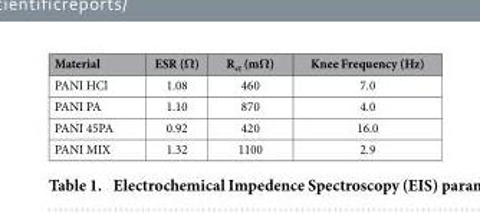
<table><thead><tr><td>Material</td><td>ESR (Ω)</td><td>R<sub>ct</sub> (mΩ)</td><td>Knee Frequency (Hz)</td></tr></thead><tbody><tr><td>PANI HCl</td><td>1.08</td><td>460</td><td>7.0</td></tr><tr><td>PANI PA</td><td>1.10</td><td>870</td><td>4.0</td></tr><tr><td>PANI 45PA</td><td>0.92</td><td>420</td><td>16.0</td></tr><tr><td>PANI MIX</td><td>1.32</td><td>1100</td><td>2.9</td></tr></tbody></table>